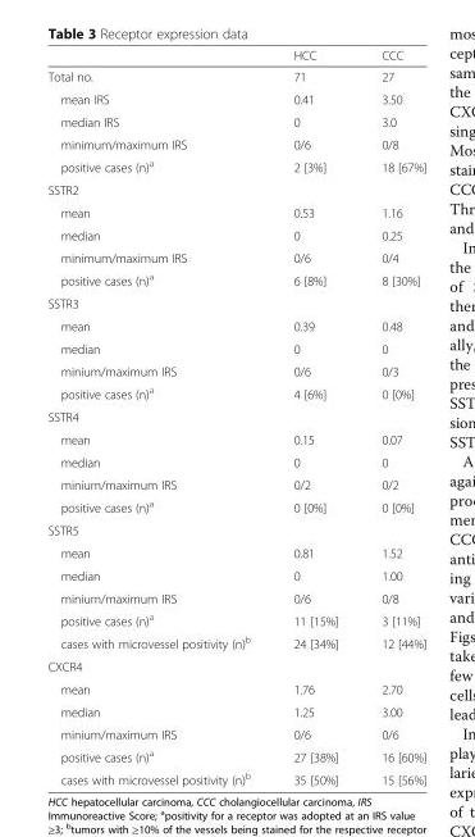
<table><thead><tr><td></td><td>HCC</td><td>CCC</td></tr></thead><tbody><tr><td>Total no.</td><td>71</td><td>27</td></tr><tr><td>mean IRS</td><td>0.41</td><td>3.50</td></tr><tr><td>median IRS</td><td>0</td><td>3.0</td></tr><tr><td>minimum/maximum IRS</td><td>0/6</td><td>0/8</td></tr><tr><td>positive cases (n)<sup>a</sup></td><td>2 [3%]</td><td>18 [67%]</td></tr><tr><td colspan="3">SSTR2</td></tr><tr><td>mean</td><td>0.53</td><td>1.16</td></tr><tr><td>median</td><td>0</td><td>0.25</td></tr><tr><td>minimum/maximum IRS</td><td>0/6</td><td>0/4</td></tr><tr><td>positive cases (n)<sup>a</sup></td><td>6 [8%]</td><td>8 [30%]</td></tr><tr><td colspan="3">SSTR3</td></tr><tr><td>mean</td><td>0.39</td><td>0.48</td></tr><tr><td>median</td><td>0</td><td>0</td></tr><tr><td>minium/maximum IRS</td><td>0/6</td><td>0/3</td></tr><tr><td>positive cases (n)<sup>a</sup></td><td>4 [6%]</td><td>0 [0%]</td></tr><tr><td colspan="3">SSTR4</td></tr><tr><td>mean</td><td>0.15</td><td>0.07</td></tr><tr><td>median</td><td>0</td><td>0</td></tr><tr><td>minium/maximum IRS</td><td>0/2</td><td>0/2</td></tr><tr><td>positive cases (n)<sup>a</sup></td><td>0 [0%]</td><td>0 [0%]</td></tr><tr><td colspan="3">SSTR5</td></tr><tr><td>mean</td><td>0.81</td><td>1.52</td></tr><tr><td>median</td><td>0</td><td>1.00</td></tr><tr><td>minium/maximum IRS</td><td>0/6</td><td>0/8</td></tr><tr><td>positive cases (n)<sup>a</sup></td><td>11 [15%]</td><td>3 [11%]</td></tr><tr><td>cases with microvessel positivity (n)<sup>b</sup></td><td>24 [34%]</td><td>12 [44%]</td></tr><tr><td colspan="3">CXCR4</td></tr><tr><td>mean</td><td>1.76</td><td>2.70</td></tr><tr><td>median</td><td>1.25</td><td>3.00</td></tr><tr><td>minium/maximum IRS</td><td>0/6</td><td>0/6</td></tr><tr><td>positive cases (n)<sup>a</sup></td><td>27 [38%]</td><td>16 [60%]</td></tr><tr><td>cases with microvessel positivity (n)<sup>b</sup></td><td>35 [50%]</td><td>15 [56%]</td></tr></tbody></table>